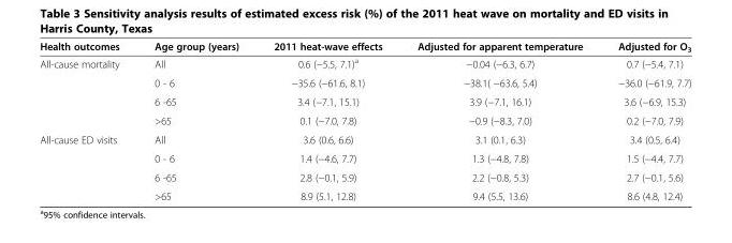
<table><thead><tr><td>Health outcomes</td><td>Age group (years)</td><td>2011 heat-wave effects</td><td>Adjusted for apparent temperature</td><td>Adjusted for O<sub>3</sub></td></tr></thead><tbody><tr><td rowspan="4">All-cause mortality</td><td>All</td><td>0.6 (−5.5, 7.1)<sup>a</sup></td><td>−0.04 (−6.3, 6.7)</td><td>0.7 (−5.4, 7.1)</td></tr><tr><td>0 - 6</td><td>−35.6 (−61.6, 8.1)</td><td>−38.1( −63.6, 5.4)</td><td>−36.0 (−61.9, 7.7)</td></tr><tr><td>6 -65</td><td>3.4 (−7.1, 15.1)</td><td>3.9 (−7.1, 16.1)</td><td>3.6 (−6.9, 15.3)</td></tr><tr><td>&gt;65</td><td>0.1 (−7.0, 7.8)</td><td>−0.9 (−8.3, 7.0)</td><td>0.2 (−7.0, 7.9)</td></tr><tr><td rowspan="4">All-cause ED visits</td><td>All</td><td>3.6 (0.6, 6.6)</td><td>3.1 (0.1, 6.3)</td><td>3.4 (0.5, 6.4)</td></tr><tr><td>0 - 6</td><td>1.4 (−4.6, 7.7)</td><td>1.3 (−4.8, 7.8)</td><td>1.5 (−4.4, 7.7)</td></tr><tr><td>6 -65</td><td>2.8 (−0.1, 5.9)</td><td>2.2 (−0.8, 5.3)</td><td>2.7 (−0.1, 5.6)</td></tr><tr><td>&gt;65</td><td>8.9 (5.1, 12.8)</td><td>9.4 (5.5, 13.6)</td><td>8.6 (4.8, 12.4)</td></tr></tbody></table>